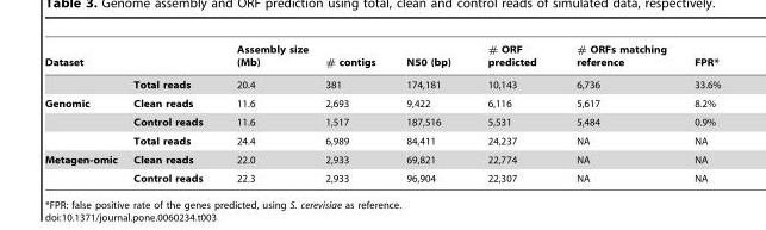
<table><thead><tr><td colspan="2">Dataset</td><td rowspan="2">Assembly size (Mb) 20.4</td><td rowspan="2"># contigs 381</td><td rowspan="2">N50 (bp) 174,181</td><td rowspan="2"># ORF predicted 10,143</td><td rowspan="2"># ORFs matching reference 6,736</td><td rowspan="2">FPR* 33.6%</td></tr><tr><td></td><td>Total reads</td></tr></thead><tbody><tr><td rowspan="3">Genomic</td><td>Clean reads</td><td>11.6</td><td>2,693</td><td>9,422</td><td>6,116</td><td>5,617</td><td>8.2%</td></tr><tr><td>Control reads</td><td>11.6</td><td>1,517</td><td>187,516</td><td>5,531</td><td>5,484</td><td>0.9%</td></tr><tr><td>Total reads</td><td>24.4</td><td>6,989</td><td>84,411</td><td>24,237</td><td>NA</td><td>NA</td></tr><tr><td rowspan="2">Metagen-omic</td><td>Clean reads</td><td>22.0</td><td>2,933</td><td>69,821</td><td>22,774</td><td>NA</td><td>NA</td></tr><tr><td>Control reads</td><td>22.3</td><td>2,933</td><td>96,904</td><td>22,307</td><td>NA</td><td>NA</td></tr></tbody></table>